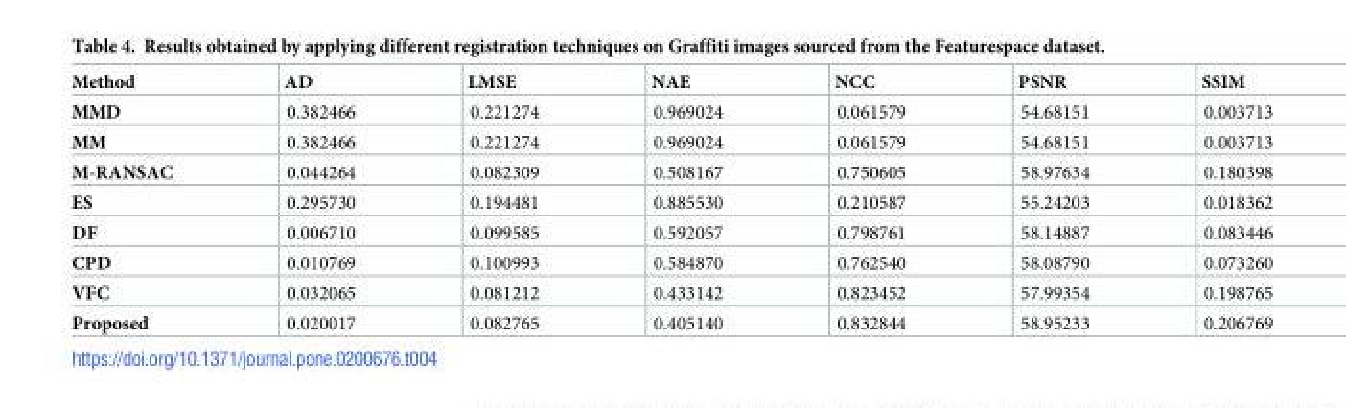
<table><thead><tr><td>Method</td><td>AD</td><td>LMSE</td><td>NAE</td><td>NCC</td><td>PSNR</td><td>SSIM</td></tr></thead><tbody><tr><td>MMD</td><td>0.382466</td><td>0.221274</td><td>0.969024</td><td>0.061579</td><td>54.68151</td><td>0.003713</td></tr><tr><td>MM</td><td>0.382466</td><td>0.221274</td><td>0.969024</td><td>0.061579</td><td>54.68151</td><td>0.003713</td></tr><tr><td>M-RANSAC</td><td>0.044264</td><td>0.082309</td><td>0.508167</td><td>0.750605</td><td>58.97634</td><td>0.180398</td></tr><tr><td>ES</td><td>0.295730</td><td>0.194481</td><td>0.885530</td><td>0.210587</td><td>55.24203</td><td>0.018362</td></tr><tr><td>DF</td><td>0.006710</td><td>0.099585</td><td>0.592057</td><td>0.798761</td><td>58.14887</td><td>0.083446</td></tr><tr><td>CPD</td><td>0.010769</td><td>0.100993</td><td>0.584870</td><td>0.762540</td><td>58.08790</td><td>0.073260</td></tr><tr><td>VFC</td><td>0.032065</td><td>0.081212</td><td>0.433142</td><td>0.823452</td><td>57.99354</td><td>0.198765</td></tr><tr><td>Proposed</td><td>0.020017</td><td>0.082765</td><td>0.405140</td><td>0.832844</td><td>58.95233</td><td>0.206769</td></tr></tbody></table>